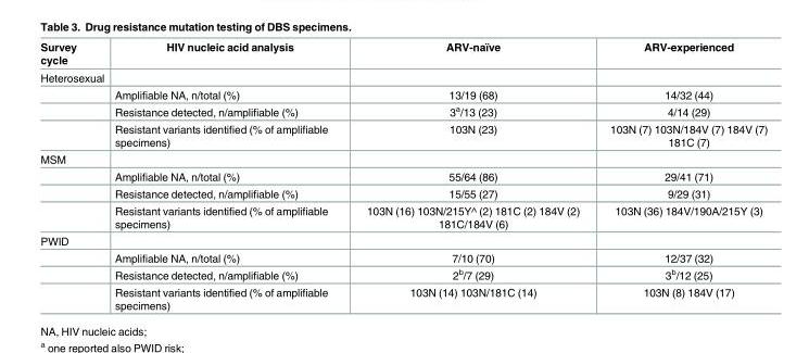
<table><thead><tr><td>Survey cycle</td><td>HIV nucleic acid analysis</td><td>ARV-naïve</td><td>ARV-experienced</td></tr></thead><tbody><tr><td colspan="4">Heterosexual</td></tr><tr><td></td><td>Amplifiable NA, n/total (%)</td><td>13/19 (68)</td><td>14/32 (44)</td></tr><tr><td></td><td>Resistance detected, n/amplifiable (%)</td><td>3<sup>a</sup>/13 (23)</td><td>4/14 (29)</td></tr><tr><td></td><td>Resistant variants identified (% of amplifiable specimens)</td><td>103N (23)</td><td>103N (7) 103N/184V (7) 184V (7) 181C (7)</td></tr><tr><td colspan="4">MSM</td></tr><tr><td></td><td>Amplifiable NA, n/total (%)</td><td>55/64 (86)</td><td>29/41 (71)</td></tr><tr><td></td><td>Resistance detected, n/amplifiable (%)</td><td>15/55 (27)</td><td>9/29 (31)</td></tr><tr><td></td><td>Resistant variants identified (% of amplifiable specimens)</td><td>103N (16) 103N/215Y^ (2) 181C (2) 184V (2) 181C/184V (6)</td><td>103N (36) 184V/190A/215Y (3)</td></tr><tr><td colspan="4">PWID</td></tr><tr><td></td><td>Amplifiable NA, n/total (%)</td><td>7/10 (70)</td><td>12/37 (32)</td></tr><tr><td></td><td>Resistance detected, n/amplifiable (%)</td><td>2<sup>b</sup>/7 (29)</td><td>3<sup>b</sup>/12 (25)</td></tr><tr><td></td><td>Resistant variants identified (% of amplifiable specimens)</td><td>103N (14) 103N/181C (14)</td><td>103N (8) 184V (17)</td></tr></tbody></table>